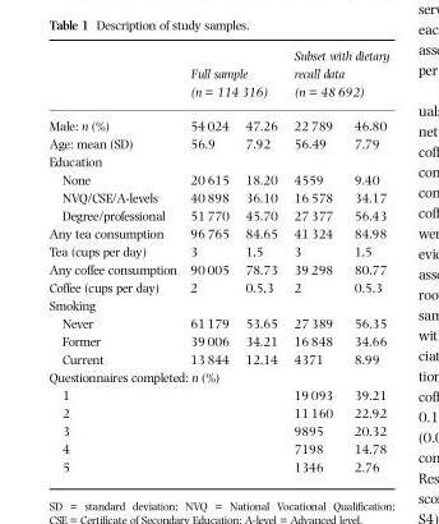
<table><thead><tr><td rowspan="2">Male: n (%)</td><td colspan="2">Full sample (n = 114 316)</td><td colspan="2">Subset with dietary recall data (n = 48 692)</td></tr><tr><td>54 024</td><td>47.26</td><td>22 789</td><td>46.80</td></tr></thead><tbody><tr><td>Age: mean (SD)</td><td>56.9</td><td>7.92</td><td>56.49</td><td>7.79</td></tr><tr><td colspan="5">Education</td></tr><tr><td>None</td><td>20 615</td><td>18.20</td><td>4559</td><td>9.40</td></tr><tr><td>NVQ/CSE/A-levels</td><td>40 898</td><td>36.10</td><td>16 578</td><td>34.17</td></tr><tr><td>Degree/professional</td><td>51 770</td><td>45.70</td><td>27 377</td><td>56.43</td></tr><tr><td>Any tea consumption</td><td>96 765</td><td>84.65</td><td>41 324</td><td>84.98</td></tr><tr><td>Tea (cups per day)</td><td>3</td><td>1,5</td><td>3</td><td>1,5</td></tr><tr><td>Any coffee consumption</td><td>90 005</td><td>78.73</td><td>39 298</td><td>80.77</td></tr><tr><td>Coffee (cups per day)</td><td>2</td><td>0.5,3</td><td>2</td><td>0.5,3</td></tr><tr><td colspan="5">Smoking</td></tr><tr><td>Never</td><td>61 179</td><td>53.65</td><td>27 389</td><td>56.35</td></tr><tr><td>Former</td><td>39 006</td><td>34.21</td><td>16 848</td><td>34.66</td></tr><tr><td>Current</td><td>13 844</td><td>12.14</td><td>4371</td><td>8.99</td></tr><tr><td colspan="5">Questionnaires completed: n (%)</td></tr><tr><td>1</td><td></td><td></td><td>19 093</td><td>39.21</td></tr><tr><td>2</td><td></td><td></td><td>11 160</td><td>22.92</td></tr><tr><td>3</td><td></td><td></td><td>9895</td><td>20.32</td></tr><tr><td>4</td><td></td><td></td><td>7198</td><td>14.78</td></tr><tr><td>5</td><td></td><td></td><td>1346</td><td>2.76</td></tr></tbody></table>